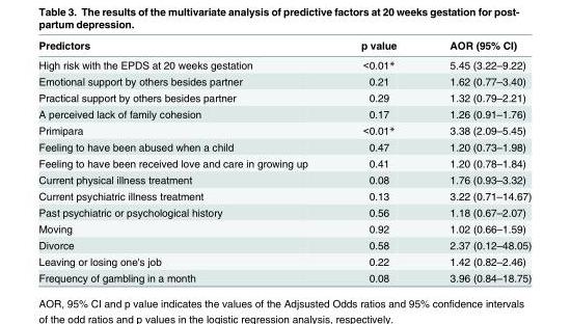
<table><thead><tr><td>Predictors</td><td>p value</td><td>AOR (95% CI)</td></tr></thead><tbody><tr><td>High risk with the EPDS at 20 weeks gestation</td><td>&lt;0.01*</td><td>5.45 (3.22–9.22)</td></tr><tr><td>Emotional support by others besides partner</td><td>0.21</td><td>1.62 (0.77–3.40)</td></tr><tr><td>Practical support by others besides partner</td><td>0.29</td><td>1.32 (0.79–2.21)</td></tr><tr><td>A perceived lack of family cohesion</td><td>0.17</td><td>1.26 (0.91–1.76)</td></tr><tr><td>Primipara</td><td>&lt;0.01*</td><td>3.38 (2.09–5.45)</td></tr><tr><td>Feeling to have been abused when a child</td><td>0.47</td><td>1.20 (0.73–1.98)</td></tr><tr><td>Feeling to have been received love and care in growing up</td><td>0.41</td><td>1.20 (0.78–1.84)</td></tr><tr><td>Current physical illness treatment</td><td>0.08</td><td>1.76 (0.93–3.32)</td></tr><tr><td>Current psychiatric illness treatment</td><td>0.13</td><td>3.22 (0.71–14.67)</td></tr><tr><td>Past psychiatric or psychological history</td><td>0.56</td><td>1.18 (0.67–2.07)</td></tr><tr><td>Moving</td><td>0.92</td><td>1.02 (0.66–1.59)</td></tr><tr><td>Divorce</td><td>0.58</td><td>2.37 (0.12–48.05)</td></tr><tr><td>Leaving or losing one&#x27;s job</td><td>0.22</td><td>1.42 (0.82–2.46)</td></tr><tr><td>Frequency of gambling in a month</td><td>0.08</td><td>3.96 (0.84–18.75)</td></tr></tbody></table>